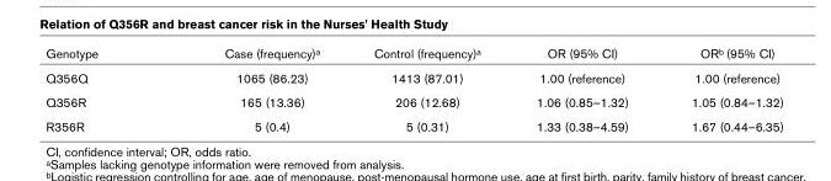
<table><thead><tr><td>Genotype</td><td>Case (frequency)a</td><td>Control (frequency)a</td><td>OR (95% CI)</td><td>ORb (95% CI)</td></tr></thead><tbody><tr><td>Q356Q</td><td>1065 (86.23)</td><td>1413 (87.01)</td><td>1.00 (reference)</td><td>1.00 (reference)</td></tr><tr><td>Q356R</td><td>165 (13.36)</td><td>206 (12.68)</td><td>1.06 (0.85–1.32)</td><td>1.05 (0.84–1.32)</td></tr><tr><td>R356R</td><td>5 (0.4)</td><td>5 (0.31)</td><td>1.33 (0.38–4.59)</td><td>1.67 (0.44–6.35)</td></tr></tbody></table>